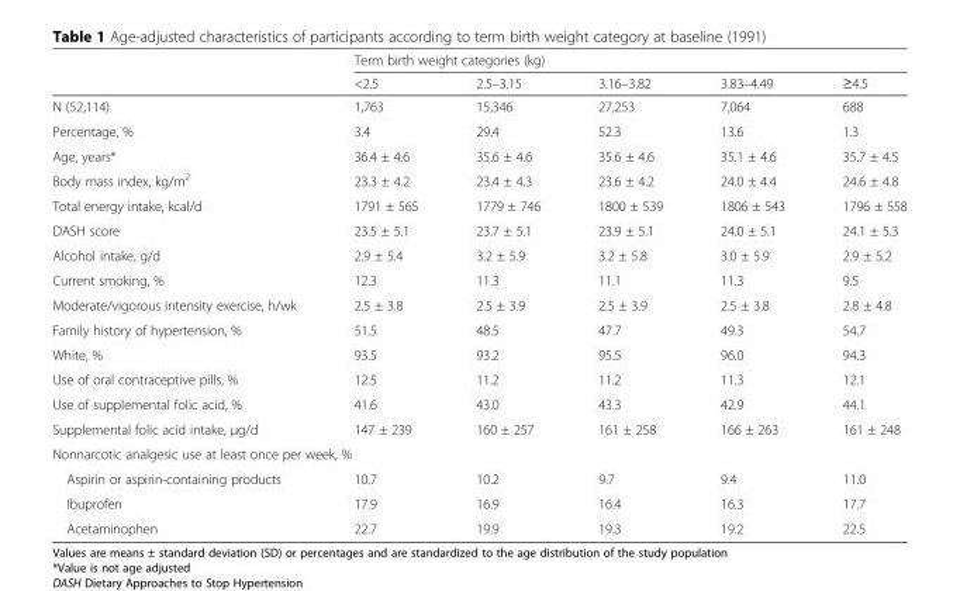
<table><thead><tr><td rowspan="2"></td><td colspan="5">Term birth weight categories (kg)</td></tr><tr><td>&lt;2.5</td><td>2.5–3.15</td><td>3.16–3.82</td><td>3.83–4.49</td><td>≥4.5</td></tr></thead><tbody><tr><td>N (52,114)</td><td>1,763</td><td>15,346</td><td>27,253</td><td>7,064</td><td>688</td></tr><tr><td>Percentage, %</td><td>3.4</td><td>29.4</td><td>52.3</td><td>13.6</td><td>1.3</td></tr><tr><td>Age, years*</td><td>36.4 ± 4.6</td><td>35.6 ± 4.6</td><td>35.6 ± 4.6</td><td>35.1 ± 4.6</td><td>35.7 ± 4.5</td></tr><tr><td>Body mass index, kg/m<sup>2</sup></td><td>23.3 ± 4.2</td><td>23.4 ± 4.3</td><td>23.6 ± 4.2</td><td>24.0 ± 4.4</td><td>24.6 ± 4.8</td></tr><tr><td>Total energy intake, kcal/d</td><td>1791 ± 565</td><td>1779 ± 746</td><td>1800 ± 539</td><td>1806 ± 543</td><td>1796 ± 558</td></tr><tr><td>DASH score</td><td>23.5 ± 5.1</td><td>23.7 ± 5.1</td><td>23.9 ± 5.1</td><td>24.0 ± 5.1</td><td>24.1 ± 5.3</td></tr><tr><td>Alcohol intake, g/d</td><td>2.9 ± 5.4</td><td>3.2 ± 5.9</td><td>3.2 ± 5.8</td><td>3.0 ± 5.9</td><td>2.9 ± 5.2</td></tr><tr><td>Current smoking, %</td><td>12.3</td><td>11.3</td><td>11.1</td><td>11.3</td><td>9.5</td></tr><tr><td>Moderate/vigorous intensity exercise, h/wk</td><td>2.5 ± 3.8</td><td>2.5 ± 3.9</td><td>2.5 ± 3.9</td><td>2.5 ± 3.8</td><td>2.8 ± 4.8</td></tr><tr><td>Family history of hypertension, %</td><td>51.5</td><td>48.5</td><td>47.7</td><td>49.3</td><td>54.7</td></tr><tr><td>White, %</td><td>93.5</td><td>93.2</td><td>95.5</td><td>96.0</td><td>94.3</td></tr><tr><td>Use of oral contraceptive pills, %</td><td>12.5</td><td>11.2</td><td>11.2</td><td>11.3</td><td>12.1</td></tr><tr><td>Use of supplemental folic acid, %</td><td>41.6</td><td>43.0</td><td>43.3</td><td>42.9</td><td>44.1</td></tr><tr><td>Supplemental folic acid intake, μg/d</td><td>147 ± 239</td><td>160 ± 257</td><td>161 ± 258</td><td>166 ± 263</td><td>161 ± 248</td></tr><tr><td colspan="6">Nonnarcotic analgesic use at least once per week, %</td></tr><tr><td>Aspirin or aspirin-containing products</td><td>10.7</td><td>10.2</td><td>9.7</td><td>9.4</td><td>11.0</td></tr><tr><td>Ibuprofen</td><td>17.9</td><td>16.9</td><td>16.4</td><td>16.3</td><td>17.7</td></tr><tr><td>Acetaminophen</td><td>22.7</td><td>19.9</td><td>19.3</td><td>19.2</td><td>22.5</td></tr></tbody></table>